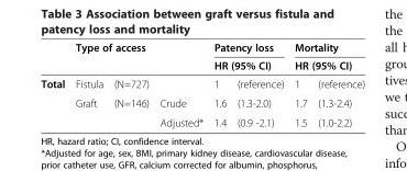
<table><thead><tr><td rowspan="3">Total</td><td colspan="2">Type of access</td><td rowspan="3"></td><td rowspan="2" colspan="2">Patency loss HR (95% CI)</td><td rowspan="2" colspan="2">Mortality HR (95% CI)</td></tr><tr><td rowspan="2">Fistula</td><td rowspan="2">(N=727)</td></tr><tr><td>1</td><td>(reference)</td><td>1</td><td>(reference)</td></tr></thead><tbody><tr><td></td><td>Graft</td><td>(N=146)</td><td>Crude</td><td>1.6</td><td>(1.3-2.0)</td><td>1.7</td><td>(1.3-2.4)</td></tr><tr><td></td><td colspan="2"></td><td>Adjusted*</td><td>1.4</td><td>(0.9 -2.1)</td><td>1.5</td><td>(1.0-2.2)</td></tr></tbody></table>